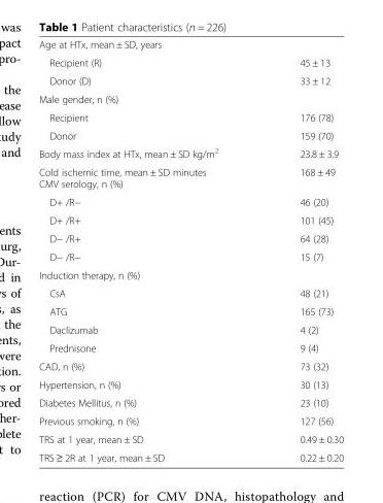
<table><tbody><tr><td colspan="2">Age at HTx, mean ± SD, years</td></tr><tr><td>Recipient (R)</td><td>45 ± 13</td></tr><tr><td>Donor (D)</td><td>33 ± 12</td></tr><tr><td colspan="2">Male gender, n (%)</td></tr><tr><td>Recipient</td><td>176 (78)</td></tr><tr><td>Donor</td><td>159 (70)</td></tr><tr><td>Body mass index at HTx, mean ± SD kg/m<sup>2</sup></td><td>23.8 ± 3.9</td></tr><tr><td>Cold ischemic time, mean ± SD minutes CMV serology, n (%)</td><td>168 ± 49</td></tr><tr><td>D+ /R−</td><td>46 (20)</td></tr><tr><td>D+ /R+</td><td>101 (45)</td></tr><tr><td>D− /R+</td><td>64 (28)</td></tr><tr><td>D− /R−</td><td>15 (7)</td></tr><tr><td colspan="2">Induction therapy, n (%)</td></tr><tr><td>CsA</td><td>48 (21)</td></tr><tr><td>ATG</td><td>165 (73)</td></tr><tr><td>Daclizumab</td><td>4 (2)</td></tr><tr><td>Prednisone</td><td>9 (4)</td></tr><tr><td>CAD, n (%)</td><td>73 (32)</td></tr><tr><td>Hypertension, n (%)</td><td>30 (13)</td></tr><tr><td>Diabetes Mellitus, n (%)</td><td>23 (10)</td></tr><tr><td>Previous smoking, n (%)</td><td>127 (56)</td></tr><tr><td>TRS at 1 year, mean ± SD</td><td>0.49 ± 0.30</td></tr><tr><td>TRS ≥ 2R at 1 year, mean ± SD</td><td>0.22 ± 0.20</td></tr></tbody></table>